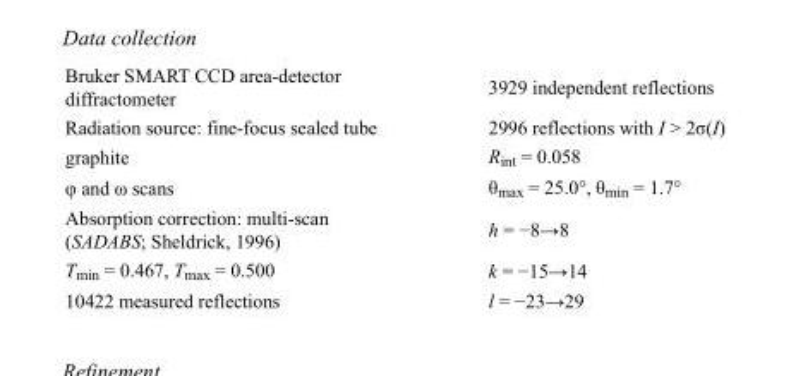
<table><tbody><tr><td>Bruker SMART CCD area-detector diffractometer</td><td>3929 independent reflections</td></tr><tr><td>Radiation source: fine-focus sealed tube</td><td>2996 reflections with I &gt; 2σ(I)</td></tr><tr><td>graphite</td><td>R<sub>int</sub> = 0.058</td></tr><tr><td>φ and ω scans</td><td>θ<sub>max</sub> = 25.0°, θ<sub>min</sub> = 1.7°</td></tr><tr><td>Absorption correction: multi-scan (SADABS; Sheldrick, 1996)</td><td>h = −8→8</td></tr><tr><td>T<sub>min</sub> = 0.467, T<sub>max</sub> = 0.500</td><td>k = −15→14</td></tr><tr><td>10422 measured reflections</td><td>l = −23→29</td></tr></tbody></table>